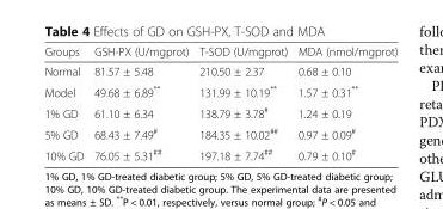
<table><thead><tr><td>Groups</td><td>GSH-PX (U/mgprot)</td><td>T-SOD (U/mgprot)</td><td>MDA (nmol/mgprot)</td></tr></thead><tbody><tr><td>Normal</td><td>81.57 ± 5.48</td><td>210.50 ± 2.37</td><td>0.68 ± 0.10</td></tr><tr><td>Model</td><td>49.68 ± 6.89**</td><td>131.99 ± 10.19**</td><td>1.57 ± 0.31**</td></tr><tr><td>1% GD</td><td>61.10 ± 6.34</td><td>138.79 ± 3.78<sup>#</sup></td><td>1.24 ± 0.19</td></tr><tr><td>5% GD</td><td>68.43 ± 7.49<sup>#</sup></td><td>184.35 ± 10.02<sup>##</sup></td><td>0.97 ± 0.09<sup>#</sup></td></tr><tr><td>10% GD</td><td>76.05 ± 5.31<sup>##</sup></td><td>197.18 ± 7.74<sup>##</sup></td><td>0.79 ± 0.10<sup>#</sup></td></tr></tbody></table>